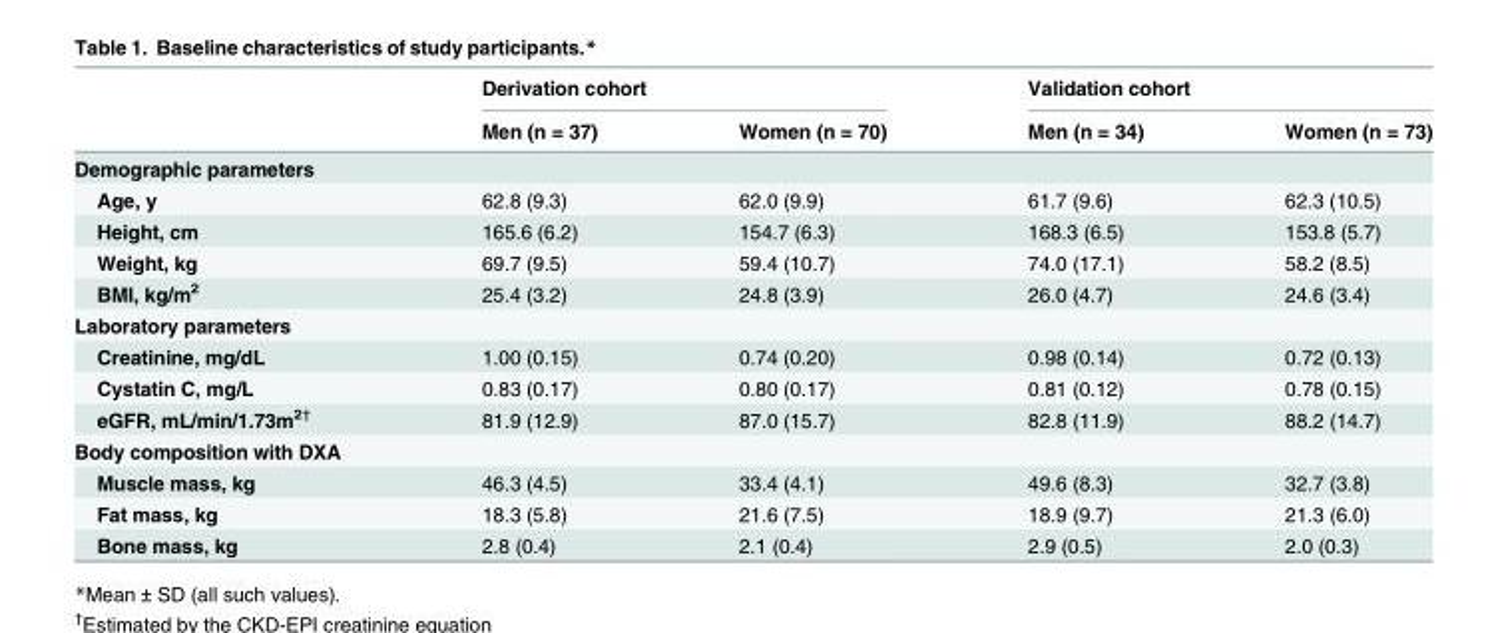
<table><thead><tr><td rowspan="2"></td><td colspan="2">Derivation cohort</td><td colspan="2">Validation cohort</td></tr><tr><td>Men (n = 37)</td><td>Women (n = 70)</td><td>Men (n = 34)</td><td>Women (n = 73)</td></tr></thead><tbody><tr><td colspan="5">Demographic parameters</td></tr><tr><td>Age, y</td><td>62.8 (9.3)</td><td>62.0 (9.9)</td><td>61.7 (9.6)</td><td>62.3 (10.5)</td></tr><tr><td>Height, cm</td><td>165.6 (6.2)</td><td>154.7 (6.3)</td><td>168.3 (6.5)</td><td>153.8 (5.7)</td></tr><tr><td>Weight, kg</td><td>69.7 (9.5)</td><td>59.4 (10.7)</td><td>74.0 (17.1)</td><td>58.2 (8.5)</td></tr><tr><td>BMI, kg/m<sup>2</sup></td><td>25.4 (3.2)</td><td>24.8 (3.9)</td><td>26.0 (4.7)</td><td>24.6 (3.4)</td></tr><tr><td colspan="5">Laboratory parameters</td></tr><tr><td>Creatinine, mg/dL</td><td>1.00 (0.15)</td><td>0.74 (0.20)</td><td>0.98 (0.14)</td><td>0.72 (0.13)</td></tr><tr><td>Cystatin C, mg/L</td><td>0.83 (0.17)</td><td>0.80 (0.17)</td><td>0.81 (0.12)</td><td>0.78 (0.15)</td></tr><tr><td>eGFR, mL/min/1.73m<sup>2†</sup></td><td>81.9 (12.9)</td><td>87.0 (15.7)</td><td>82.8 (11.9)</td><td>88.2 (14.7)</td></tr><tr><td colspan="5">Body composition with DXA</td></tr><tr><td>Muscle mass, kg</td><td>46.3 (4.5)</td><td>33.4 (4.1)</td><td>49.6 (8.3)</td><td>32.7 (3.8)</td></tr><tr><td>Fat mass, kg</td><td>18.3 (5.8)</td><td>21.6 (7.5)</td><td>18.9 (9.7)</td><td>21.3 (6.0)</td></tr><tr><td>Bone mass, kg</td><td>2.8 (0.4)</td><td>2.1 (0.4)</td><td>2.9 (0.5)</td><td>2.0 (0.3)</td></tr></tbody></table>